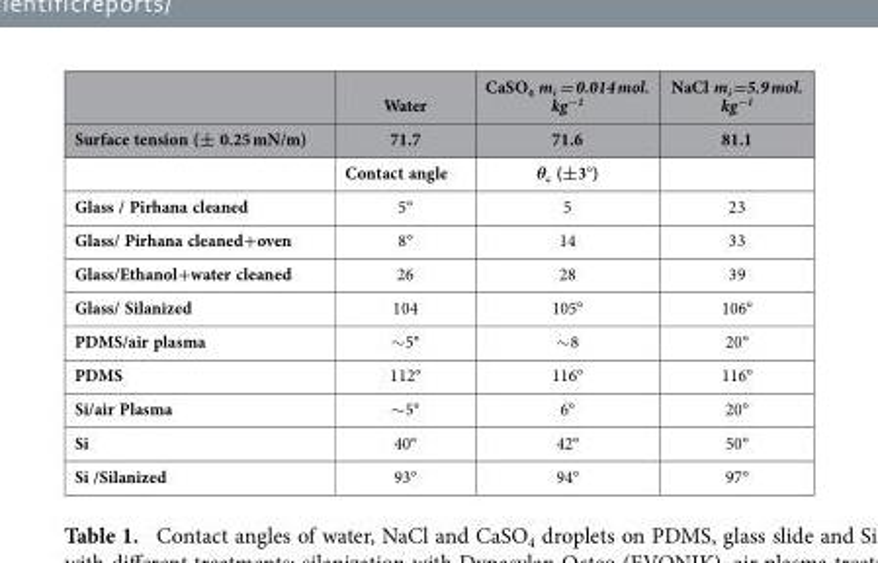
<table><thead><tr><td rowspan="2">Surface tension (± 0.25 mN/m)</td><td rowspan="2">Water 71.7</td><td rowspan="2">CaSO<sub>4</sub> m<sub>i</sub> = 0.014 mol. kg<sup>−1</sup> 71.6</td><td rowspan="2">NaCl m<sub>i</sub>=5.9 mol. kg<sup>−1</sup> 81.1</td></tr><tr></tr></thead><tbody><tr><td></td><td>Contact angle</td><td>θ<sub>c</sub> (±3°)</td><td></td></tr><tr><td>Glass / Pirhana cleaned</td><td>5°</td><td>5</td><td>23</td></tr><tr><td>Glass/ Pirhana cleaned+oven</td><td>8°</td><td>14</td><td>33</td></tr><tr><td>Glass/Ethanol+water cleaned</td><td>26</td><td>28</td><td>39</td></tr><tr><td>Glass/ Silanized</td><td>104</td><td>105°</td><td>106°</td></tr><tr><td>PDMS/air plasma</td><td>∼ 5°</td><td>∼ 8</td><td>20°</td></tr><tr><td>PDMS</td><td>112°</td><td>116°</td><td>116°</td></tr><tr><td>Si/air Plasma</td><td>∼ 5°</td><td>6°</td><td>20°</td></tr><tr><td>Si</td><td>40°</td><td>42°</td><td>50°</td></tr><tr><td>Si /Silanized</td><td>93°</td><td>94°</td><td>97°</td></tr></tbody></table>